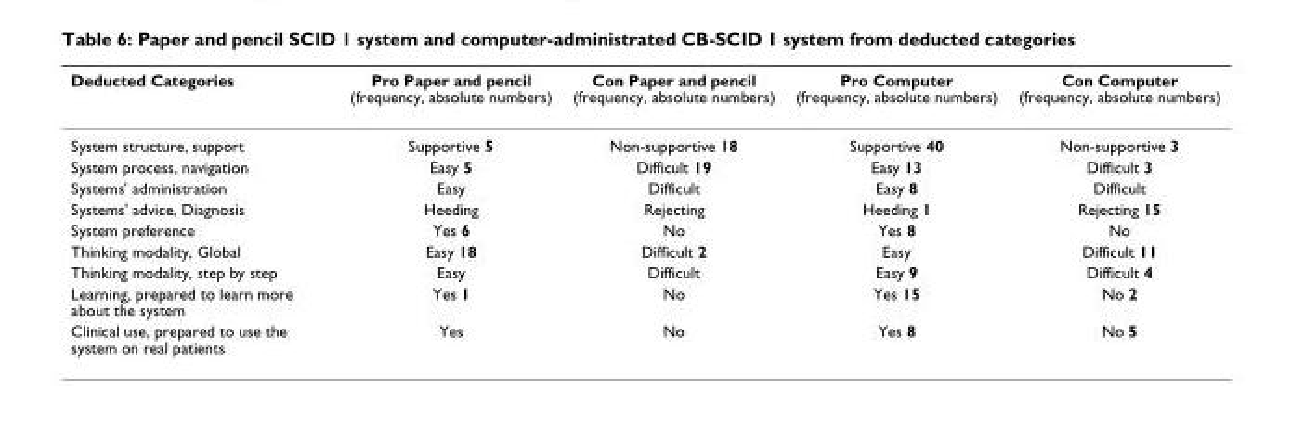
<table><thead><tr><td>Deducted Categories</td><td>Pro Paper and pencil (frequency, absolute numbers)</td><td>Con Paper and pencil (frequency, absolute numbers)</td><td>Pro Computer (frequency, absolute numbers)</td><td>Con Computer (frequency, absolute numbers)</td></tr></thead><tbody><tr><td>System structure, support</td><td>Supportive 5</td><td>Non-supportive 18</td><td>Supportive 40</td><td>Non-supportive 3</td></tr><tr><td>System process, navigation</td><td>Easy 5</td><td>Difficult 19</td><td>Easy 13</td><td>Difficult 3</td></tr><tr><td>Systems&#x27; administration</td><td>Easy</td><td>Difficult</td><td>Easy 8</td><td>Difficult</td></tr><tr><td>Systems&#x27; advice, Diagnosis</td><td>Heeding</td><td>Rejecting</td><td>Heeding 1</td><td>Rejecting 15</td></tr><tr><td>System preference</td><td>Yes 6</td><td>No</td><td>Yes 8</td><td>No</td></tr><tr><td>Thinking modality, Global</td><td>Easy 18</td><td>Difficult 2</td><td>Easy</td><td>Difficult 11</td></tr><tr><td>Thinking modality, step by step</td><td>Easy</td><td>Difficult</td><td>Easy 9</td><td>Difficult 4</td></tr><tr><td>Learning, prepared to learn more about the system</td><td>Yes 1</td><td>No</td><td>Yes 15</td><td>No 2</td></tr><tr><td>Clinical use, prepared to use the system on real patients</td><td>Yes</td><td>No</td><td>Yes 8</td><td>No 5</td></tr></tbody></table>